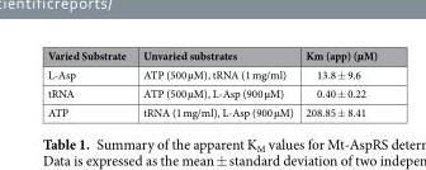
<table><thead><tr><td>Varied Substrate</td><td>Unvaried substrates</td><td>Km (app) (µM)</td></tr></thead><tbody><tr><td>L-Asp</td><td>ATP (500 µM), tRNA (1 mg/ml)</td><td>13.8 ± 9.6</td></tr><tr><td>tRNA</td><td>ATP (500 µM), L-Asp (900 µM)</td><td>0.40 ± 0.22</td></tr><tr><td>ATP</td><td>tRNA (1 mg/ml), L-Asp (900 µM)</td><td>208.85 ± 8.41</td></tr></tbody></table>